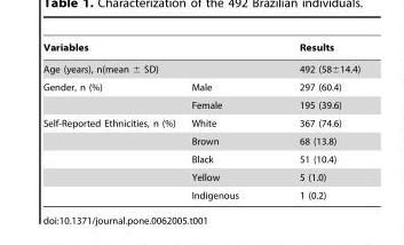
<table><thead><tr><td rowspan="2" colspan="2">Variables Age (years), n(mean ± SD)</td><td rowspan="3">Results 492 (58±14.4) 297 (60.4)</td></tr><tr></tr><tr><td>Gender, n (%)</td><td>Male</td></tr></thead><tbody><tr><td></td><td>Female</td><td>195 (39.6)</td></tr><tr><td rowspan="5">Self-Reported Ethnicities, n (%)</td><td>White</td><td>367 (74.6)</td></tr><tr><td>Brown</td><td>68 (13.8)</td></tr><tr><td>Black</td><td>51 (10.4)</td></tr><tr><td>Yellow</td><td>5 (1.0)</td></tr><tr><td>Indigenous</td><td>1 (0.2)</td></tr></tbody></table>